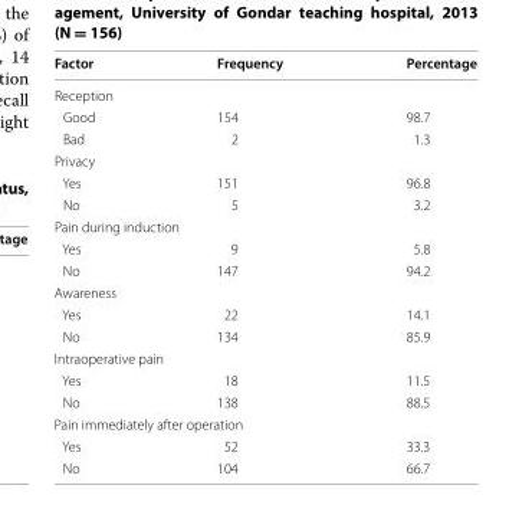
<table><thead><tr><td>Factor</td><td>Frequency</td><td>Percentage</td></tr></thead><tbody><tr><td colspan="3">Reception</td></tr><tr><td>Good</td><td>154</td><td>98.7</td></tr><tr><td>Bad</td><td>2</td><td>1.3</td></tr><tr><td colspan="3">Privacy</td></tr><tr><td>Yes</td><td>151</td><td>96.8</td></tr><tr><td>No</td><td>5</td><td>3.2</td></tr><tr><td colspan="3">Pain during induction</td></tr><tr><td>Yes</td><td>9</td><td>5.8</td></tr><tr><td>No</td><td>147</td><td>94.2</td></tr><tr><td colspan="3">Awareness</td></tr><tr><td>Yes</td><td>22</td><td>14.1</td></tr><tr><td>No</td><td>134</td><td>85.9</td></tr><tr><td colspan="3">Intraoperative pain</td></tr><tr><td>Yes</td><td>18</td><td>11.5</td></tr><tr><td>No</td><td>138</td><td>88.5</td></tr><tr><td colspan="3">Pain immediately after operation</td></tr><tr><td>Yes</td><td>52</td><td>33.3</td></tr><tr><td>No</td><td>104</td><td>66.7</td></tr></tbody></table>